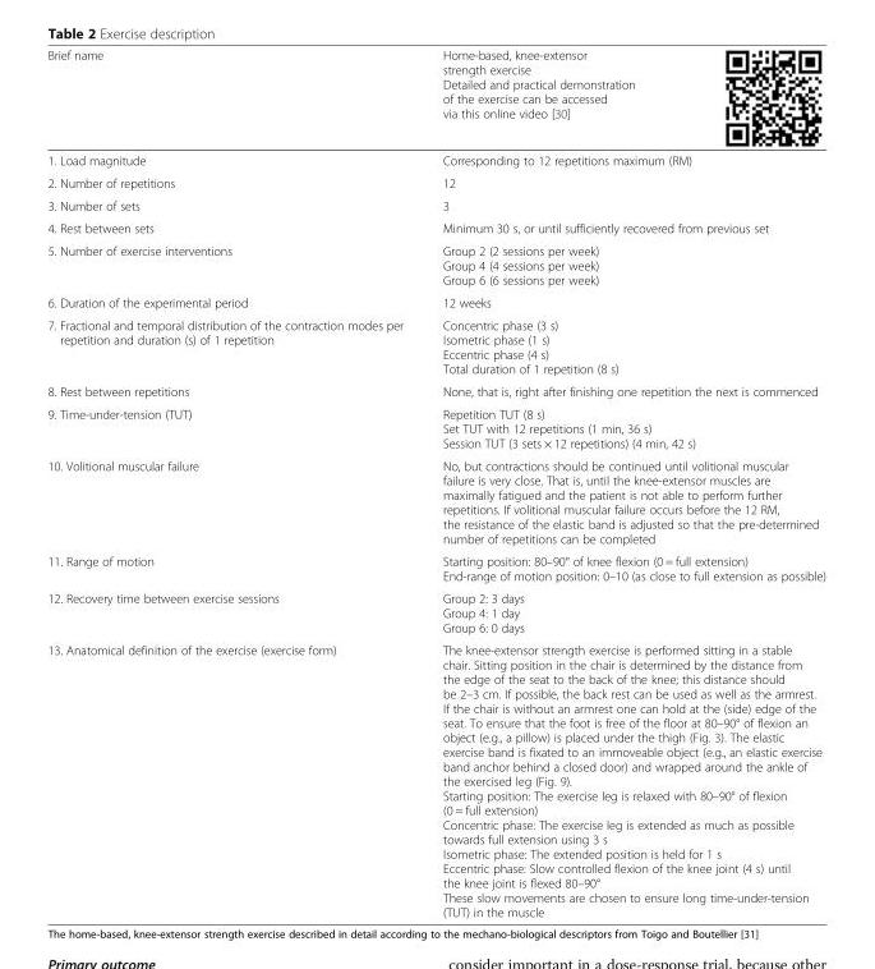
<table><thead><tr><td>Brief name</td><td>Home-based, knee-extensor strength exercise Detailed and practical demonstration of the exercise can be accessed via this online video [30]</td></tr></thead><tbody><tr><td>1. Load magnitude</td><td>Corresponding to 12 repetitions maximum (RM)</td></tr><tr><td>2. Number of repetitions</td><td>12</td></tr><tr><td>3. Number of sets</td><td>3</td></tr><tr><td>4. Rest between sets</td><td>Minimum 30 s, or until sufficiently recovered from previous set</td></tr><tr><td>5. Number of exercise interventions</td><td>Group 2 (2 sessions per week) Group 4 (4 sessions per week) Group 6 (6 sessions per week)</td></tr><tr><td>6. Duration of the experimental period</td><td>12 weeks</td></tr><tr><td>7. Fractional and temporal distribution of the contraction modes per repetition and duration (s) of 1 repetition</td><td>Concentric phase (3 s) Isometric phase (1 s) Eccentric phase (4 s) Total duration of 1 repetition (8 s)</td></tr><tr><td>8. Rest between repetitions</td><td>None, that is, right after finishing one repetition the next is commenced</td></tr><tr><td>9. Time-under-tension (TUT)</td><td>Repetition TUT (8 s) Set TUT with 12 repetitions (1 min, 36 s) Session TUT (3 sets × 12 repetitions) (4 min, 42 s)</td></tr><tr><td>10. Volitional muscular failure</td><td>No, but contractions should be continued until volitional muscular failure is very close. That is, until the knee-extensor muscles are maximally fatigued and the patient is not able to perform further repetitions. If volitional muscular failure occurs before the 12 RM, the resistance of the elastic band is adjusted so that the pre-determined number of repetitions can be completed</td></tr><tr><td>11. Range of motion</td><td>Starting position: 80–90° of knee flexion (0 = full extension) End-range of motion position: 0–10 (as close to full extension as possible)</td></tr><tr><td>12. Recovery time between exercise sessions</td><td>Group 2: 3 days Group 4: 1 day Group 6: 0 days</td></tr><tr><td>13. Anatomical definition of the exercise (exercise form)</td><td>The knee-extensor strength exercise is performed sitting in a stable chair. Sitting position in the chair is determined by the distance from the edge of the seat to the back of the knee; this distance should be 2–3 cm. If possible, the back rest can be used as well as the armrest. If the chair is without an armrest one can hold at the (side) edge of the seat. To ensure that the foot is free of the floor at 80–90° of flexion an object (e.g., a pillow) is placed under the thigh (Fig. 3). The elastic exercise band is fixated to an immoveable object (e.g., an elastic exercise band anchor behind a closed door) and wrapped around the ankle of the exercised leg (Fig. 9). Starting position: The exercise leg is relaxed with 80–90° of flexion (0 = full extension) Concentric phase: The exercise leg is extended as much as possible towards full extension using 3 s Isometric phase: The extended position is held for 1 s Eccentric phase: Slow controlled flexion of the knee joint (4 s) until the knee joint is flexed 80–90° These slow movements are chosen to ensure long time-under-tension (TUT) in the muscle</td></tr></tbody></table>